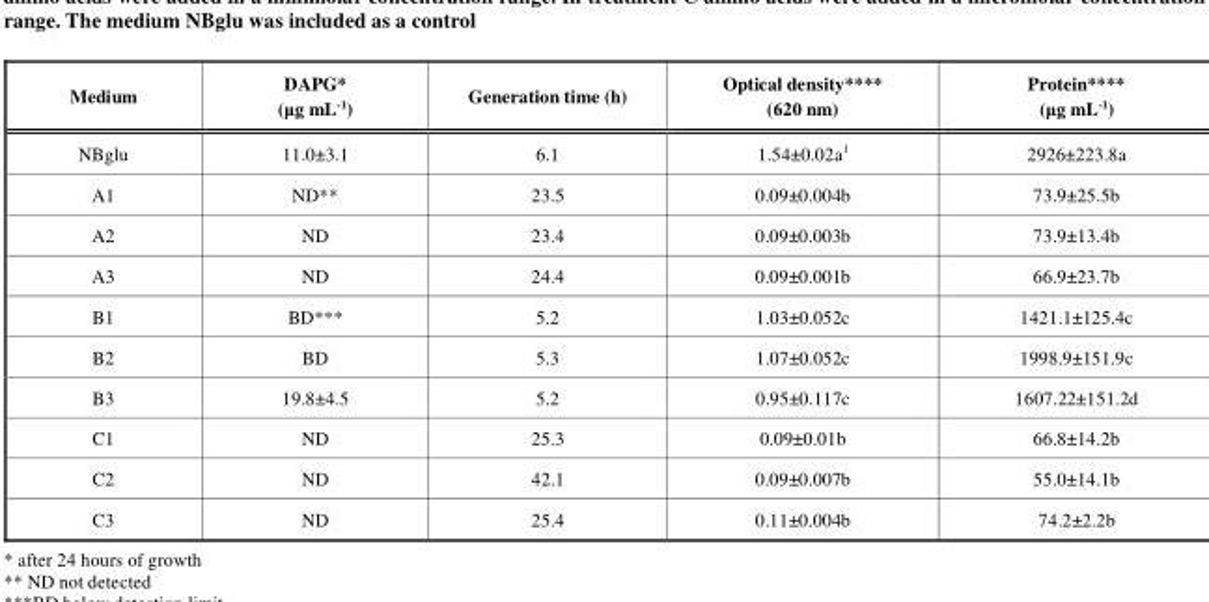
<table><thead><tr><td>Medium</td><td>DAPG* (μg mL-1)</td><td>Generation time (h)</td><td>Optical density**** (620 nm)</td><td>Protein**** (μg mL-1)</td></tr></thead><tbody><tr><td>NBglu</td><td>11.0±3.1</td><td>6.1</td><td>1.54±0.02a<sup>1</sup></td><td>2926±223.8a</td></tr><tr><td>A1</td><td>ND**</td><td>23.5</td><td>0.09±0.004b</td><td>73.9±25.5b</td></tr><tr><td>A2</td><td>ND</td><td>23.4</td><td>0.09±0.003b</td><td>73.9±13.4b</td></tr><tr><td>A3</td><td>ND</td><td>24.4</td><td>0.09±0.001b</td><td>66.9±23.7b</td></tr><tr><td>B1</td><td>BD***</td><td>5.2</td><td>1.03±0.052c</td><td>1421.1±125.4c</td></tr><tr><td>B2</td><td>BD</td><td>5.3</td><td>1.07±0.052c</td><td>1998.9±151.9c</td></tr><tr><td>B3</td><td>19.8±4.5</td><td>5.2</td><td>0.95±0.117c</td><td>1607.22±151.2d</td></tr><tr><td>C1</td><td>ND</td><td>25.3</td><td>0.09±0.01b</td><td>66.8±14.2b</td></tr><tr><td>C2</td><td>ND</td><td>42.1</td><td>0.09±0.007b</td><td>55.0±14.1b</td></tr><tr><td>C3</td><td>ND</td><td>25.4</td><td>0.11±0.004b</td><td>74.2±2.2b</td></tr></tbody></table>